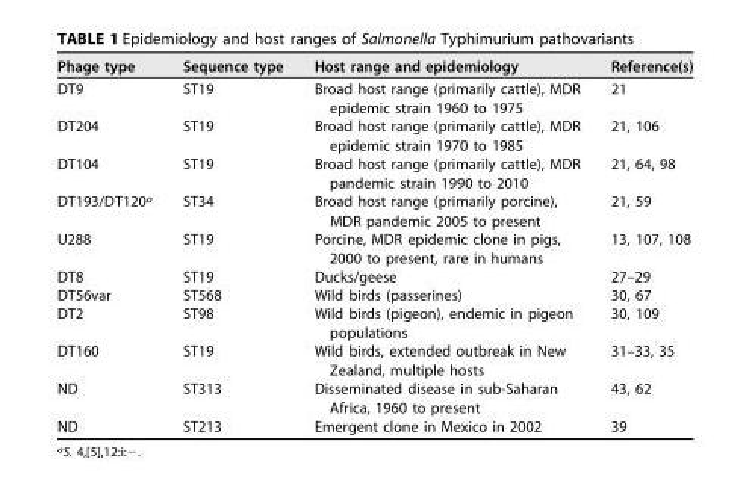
<table><thead><tr><td>Phage type</td><td>Sequence type</td><td>Host range and epidemiology</td><td>Reference(s)</td></tr></thead><tbody><tr><td>DT9</td><td>ST19</td><td>Broad host range (primarily cattle), MDR epidemic strain 1960 to 1975</td><td>21</td></tr><tr><td>DT204</td><td>ST19</td><td>Broad host range (primarily cattle), MDR epidemic strain 1970 to 1985</td><td>21, 106</td></tr><tr><td>DT104</td><td>ST19</td><td>Broad host range (primarily cattle), MDR pandemic strain 1990 to 2010</td><td>21, 64, 98</td></tr><tr><td>DT193/DT120<sup>a</sup></td><td>ST34</td><td>Broad host range (primarily porcine), MDR pandemic 2005 to present</td><td>21, 59</td></tr><tr><td>U288</td><td>ST19</td><td>Porcine, MDR epidemic clone in pigs, 2000 to present, rare in humans</td><td>13, 107, 108</td></tr><tr><td>DT8</td><td>ST19</td><td>Ducks/geese</td><td>27–29</td></tr><tr><td>DT56var</td><td>ST568</td><td>Wild birds (passerines)</td><td>30, 67</td></tr><tr><td>DT2</td><td>ST98</td><td>Wild birds (pigeon), endemic in pigeon populations</td><td>30, 109</td></tr><tr><td>DT160</td><td>ST19</td><td>Wild birds, extended outbreak in New Zealand, multiple hosts</td><td>31–33, 35</td></tr><tr><td>ND</td><td>ST313</td><td>Disseminated disease in sub-Saharan Africa, 1960 to present</td><td>43, 62</td></tr><tr><td>ND</td><td>ST213</td><td>Emergent clone in Mexico in 2002</td><td>39</td></tr></tbody></table>